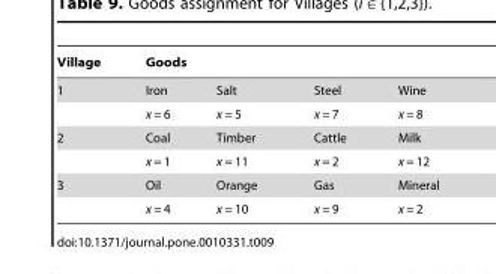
<table><thead><tr><td rowspan="2">Village 1</td><td colspan="4">Goods</td></tr><tr><td>Iron</td><td>Salt</td><td>Steel</td><td>Wine</td></tr></thead><tbody><tr><td></td><td>x = 6</td><td>x = 5</td><td>x = 7</td><td>x = 8</td></tr><tr><td rowspan="2">2</td><td>Coal</td><td>Timber</td><td>Cattle</td><td>Milk</td></tr><tr><td>x = 1</td><td>x = 11</td><td>x = 2</td><td>x = 12</td></tr><tr><td rowspan="2">3</td><td>Oil</td><td>Orange</td><td>Gas</td><td>Mineral</td></tr><tr><td>x = 4</td><td>x = 10</td><td>x = 9</td><td>x = 2</td></tr></tbody></table>